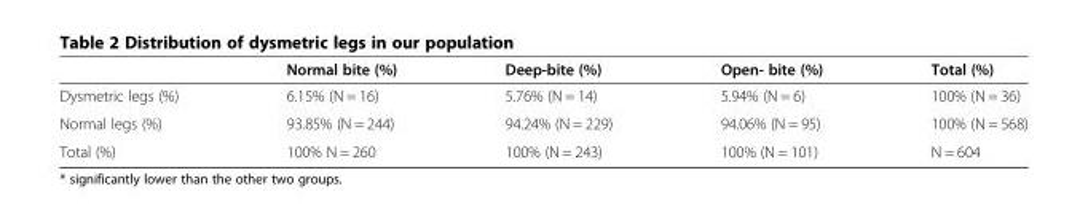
<table><thead><tr><td></td><td>Normal bite (%)</td><td>Deep-bite (%)</td><td>Open- bite (%)</td><td>Total (%)</td></tr></thead><tbody><tr><td>Dysmetric legs (%)</td><td>6.15% (N = 16)</td><td>5.76% (N = 14)</td><td>5.94% (N = 6)</td><td>100% (N = 36)</td></tr><tr><td>Normal legs (%)</td><td>93.85% (N = 244)</td><td>94.24% (N = 229)</td><td>94.06% (N = 95)</td><td>100% (N = 568)</td></tr><tr><td>Total (%)</td><td>100% N = 260</td><td>100% (N = 243)</td><td>100% (N = 101)</td><td>N = 604</td></tr></tbody></table>